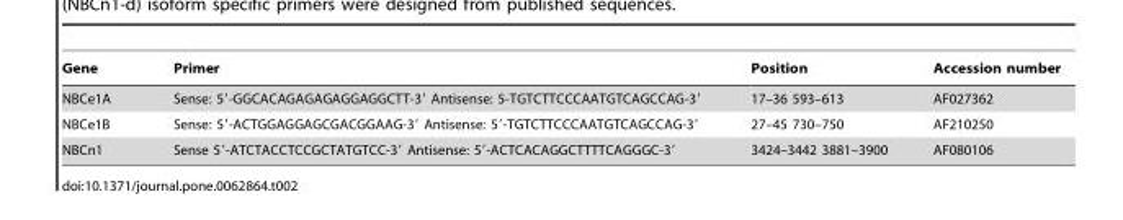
<table><thead><tr><td>Gene</td><td>Primer</td><td>Position</td><td>Accession number</td></tr></thead><tbody><tr><td>NBCe1A</td><td>Sense: 5′-GGCACAGAGAGAGGAGGCTT-3′ Antisense: 5-TGTCTTCCCAATGTCAGCCAG-3′</td><td>17–36 593–613</td><td>AF027362</td></tr><tr><td>NBCe1B</td><td>Sense: 5′-ACTGGAGGAGCGACGGAAG-3′ Antisense: 5′-TGTCTTCCCAATGTCAGCCAG-3′</td><td>27–45 730–750</td><td>AF210250</td></tr><tr><td>NBCn1</td><td>Sense 5′-ATCTACCTCCGCTATGTCC-3′ Antisense: 5′-ACTCACAGGCTTTTCAGGGC-3′</td><td>3424–3442 3881–3900</td><td>AF080106</td></tr></tbody></table>